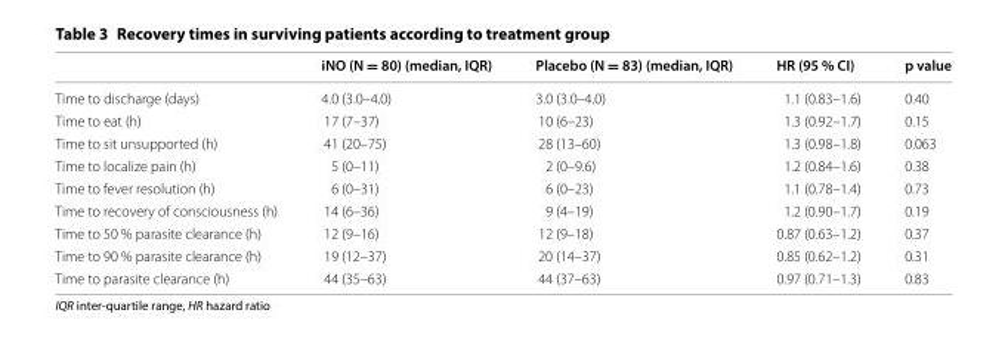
<table><thead><tr><td></td><td>iNO (N = 80) (median, IQR)</td><td>Placebo (N = 83) (median, IQR)</td><td>HR (95 % CI)</td><td>p value</td></tr></thead><tbody><tr><td>Time to discharge (days)</td><td>4.0 (3.0–4.0)</td><td>3.0 (3.0–4.0)</td><td>1.1 (0.83–1.6)</td><td>0.40</td></tr><tr><td>Time to eat (h)</td><td>17 (7–37)</td><td>10 (6–23)</td><td>1.3 (0.92–1.7)</td><td>0.15</td></tr><tr><td>Time to sit unsupported (h)</td><td>41 (20–75)</td><td>28 (13–60)</td><td>1.3 (0.98–1.8)</td><td>0.063</td></tr><tr><td>Time to localize pain (h)</td><td>5 (0–11)</td><td>2 (0–9.6)</td><td>1.2 (0.84–1.6)</td><td>0.38</td></tr><tr><td>Time to fever resolution (h)</td><td>6 (0–31)</td><td>6 (0–23)</td><td>1.1 (0.78–1.4)</td><td>0.73</td></tr><tr><td>Time to recovery of consciousness (h)</td><td>14 (6–36)</td><td>9 (4–19)</td><td>1.2 (0.90–1.7)</td><td>0.19</td></tr><tr><td>Time to 50 % parasite clearance (h)</td><td>12 (9–16)</td><td>12 (9–18)</td><td>0.87 (0.63–1.2)</td><td>0.37</td></tr><tr><td>Time to 90 % parasite clearance (h)</td><td>19 (12–37)</td><td>20 (14–37)</td><td>0.85 (0.62–1.2)</td><td>0.31</td></tr><tr><td>Time to parasite clearance (h)</td><td>44 (35–63)</td><td>44 (37–63)</td><td>0.97 (0.71–1.3)</td><td>0.83</td></tr></tbody></table>